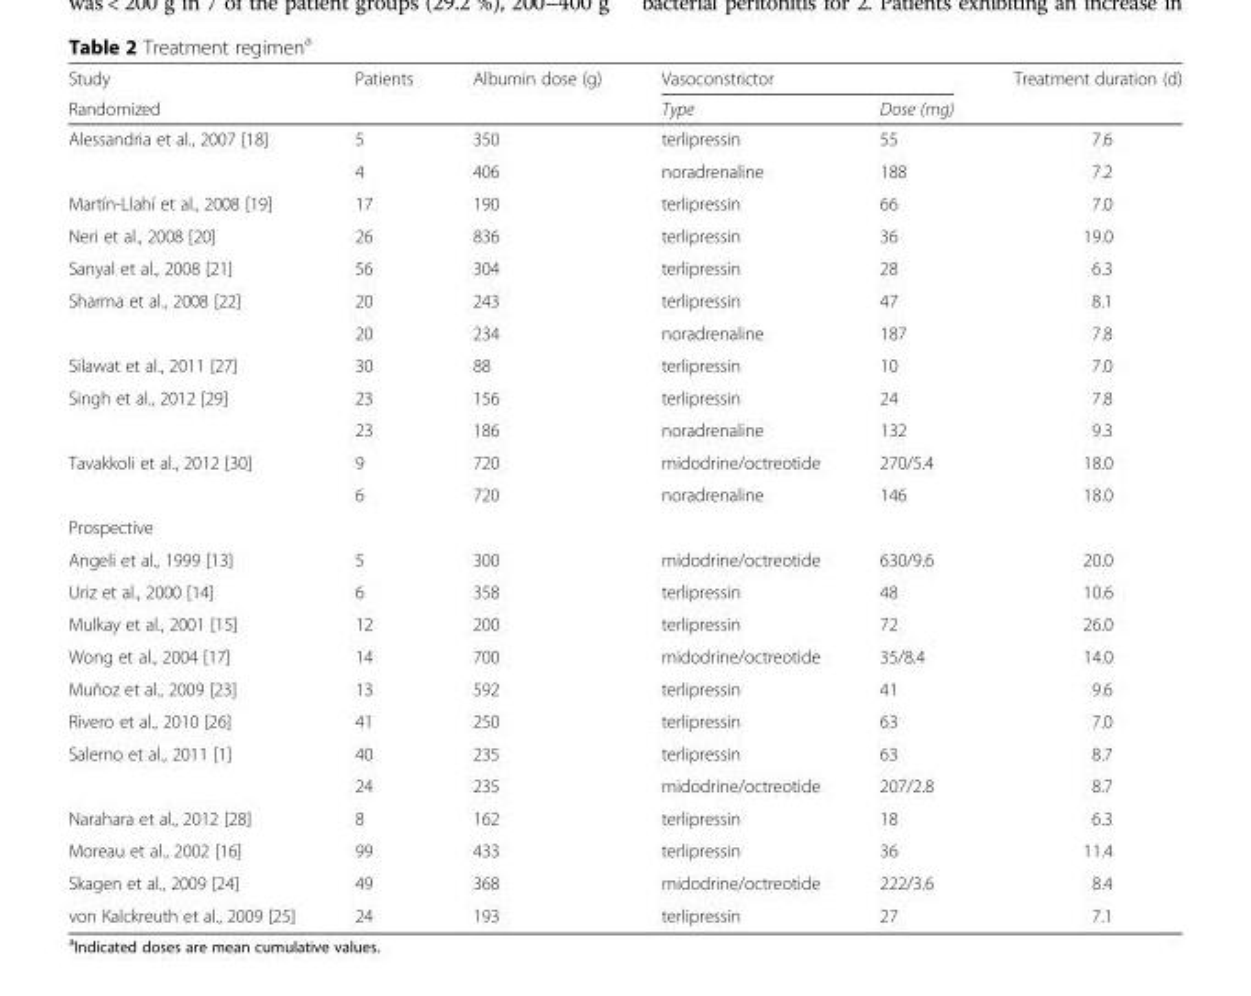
<table><thead><tr><td rowspan="2">Study Randomized</td><td rowspan="2">Patients</td><td rowspan="2">Albumin dose (g)</td><td colspan="2">Vasoconstrictor</td><td rowspan="2">Treatment duration (d)</td></tr><tr><td>Type</td><td>Dose (mg)</td></tr></thead><tbody><tr><td rowspan="2">Alessandria et al., 2007 [18]</td><td>5</td><td>350</td><td>terlipressin</td><td>55</td><td>7.6</td></tr><tr><td>4</td><td>406</td><td>noradrenaline</td><td>188</td><td>7.2</td></tr><tr><td>Martín-Llahí et al., 2008 [19]</td><td>17</td><td>190</td><td>terlipressin</td><td>66</td><td>7.0</td></tr><tr><td>Neri et al., 2008 [20]</td><td>26</td><td>836</td><td>terlipressin</td><td>36</td><td>19.0</td></tr><tr><td>Sanyal et al., 2008 [21]</td><td>56</td><td>304</td><td>terlipressin</td><td>28</td><td>6.3</td></tr><tr><td rowspan="2">Sharma et al., 2008 [22]</td><td>20</td><td>243</td><td>terlipressin</td><td>47</td><td>8.1</td></tr><tr><td>20</td><td>234</td><td>noradrenaline</td><td>187</td><td>7.8</td></tr><tr><td>Silawat et al., 2011 [27]</td><td>30</td><td>88</td><td>terlipressin</td><td>10</td><td>7.0</td></tr><tr><td rowspan="2">Singh et al., 2012 [29]</td><td>23</td><td>156</td><td>terlipressin</td><td>24</td><td>7.8</td></tr><tr><td>23</td><td>186</td><td>noradrenaline</td><td>132</td><td>9.3</td></tr><tr><td rowspan="2">Tavakkoli et al., 2012 [30]</td><td>9</td><td>720</td><td>midodrine/octreotide</td><td>270/5.4</td><td>18.0</td></tr><tr><td>6</td><td>720</td><td>noradrenaline</td><td>146</td><td>18.0</td></tr><tr><td colspan="6">Prospective</td></tr><tr><td>Angeli et al., 1999 [13]</td><td>5</td><td>300</td><td>midodrine/octreotide</td><td>630/9.6</td><td>20.0</td></tr><tr><td>Uriz et al., 2000 [14]</td><td>6</td><td>358</td><td>terlipressin</td><td>48</td><td>10.6</td></tr><tr><td>Mulkay et al., 2001 [15]</td><td>12</td><td>200</td><td>terlipressin</td><td>72</td><td>26.0</td></tr><tr><td>Wong et al., 2004 [17]</td><td>14</td><td>700</td><td>midodrine/octreotide</td><td>35/8.4</td><td>14.0</td></tr><tr><td>Muñoz et al., 2009 [23]</td><td>13</td><td>592</td><td>terlipressin</td><td>41</td><td>9.6</td></tr><tr><td>Rivero et al., 2010 [26]</td><td>41</td><td>250</td><td>terlipressin</td><td>63</td><td>7.0</td></tr><tr><td rowspan="2">Salerno et al., 2011 [1]</td><td>40</td><td>235</td><td>terlipressin</td><td>63</td><td>8.7</td></tr><tr><td>24</td><td>235</td><td>midodrine/octreotide</td><td>207/2.8</td><td>8.7</td></tr><tr><td>Narahara et al., 2012 [28]</td><td>8</td><td>162</td><td>terlipressin</td><td>18</td><td>6.3</td></tr><tr><td>Moreau et al., 2002 [16]</td><td>99</td><td>433</td><td>terlipressin</td><td>36</td><td>11.4</td></tr><tr><td>Skagen et al., 2009 [24]</td><td>49</td><td>368</td><td>midodrine/octreotide</td><td>222/3.6</td><td>8.4</td></tr><tr><td>von Kalckreuth et al., 2009 [25]</td><td>24</td><td>193</td><td>terlipressin</td><td>27</td><td>7.1</td></tr></tbody></table>